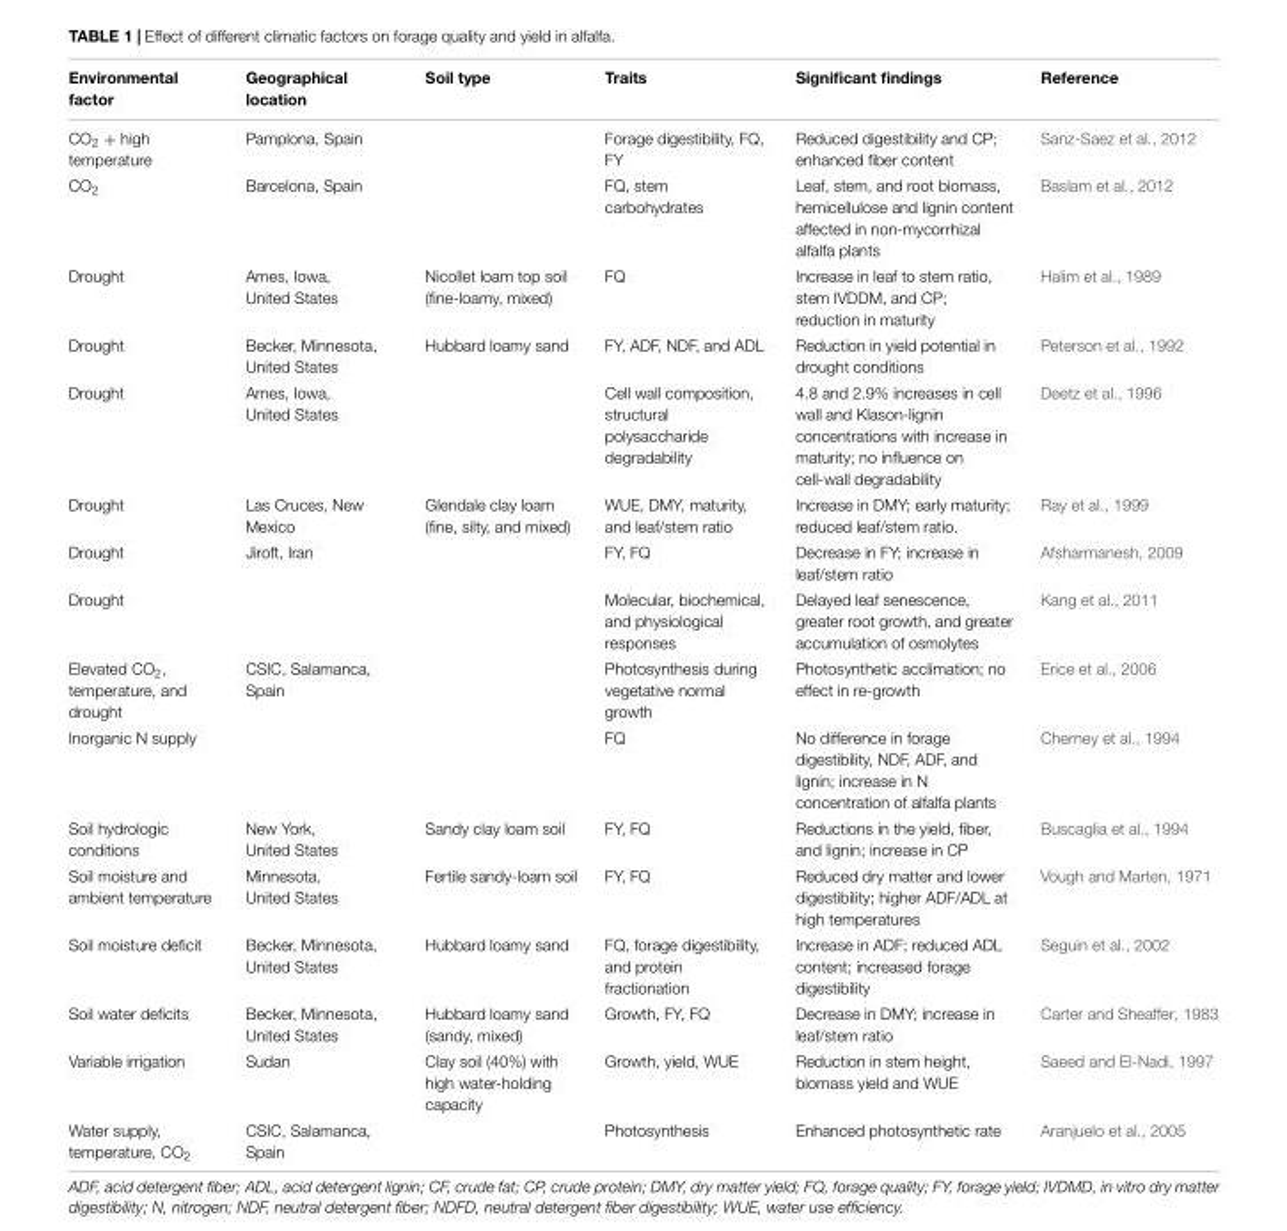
<table><thead><tr><td>Environmental factor</td><td>Geographical location</td><td>Soil type</td><td>Traits</td><td>Significant findings</td><td>Reference</td></tr></thead><tbody><tr><td>CO<sub>2</sub> + high temperature</td><td>Pamplona, Spain</td><td></td><td>Forage digestibility, FQ, FY</td><td>Reduced digestibility and CP; enhanced fiber content</td><td>Sanz-Saez et al., 2012</td></tr><tr><td>CO<sub>2</sub></td><td>Barcelona, Spain</td><td></td><td>FQ, stem carbohydrates</td><td>Leaf, stem, and root biomass, hemicellulose and lignin content affected in non-mycorrhizal alfalfa plants</td><td>Baslam et al., 2012</td></tr><tr><td>Drought</td><td>Ames, Iowa, United States</td><td>Nicollet loam top soil (fine-loamy, mixed)</td><td>FQ</td><td>Increase in leaf to stem ratio, stem IVDDM, and CP; reduction in maturity</td><td>Halim et al., 1989</td></tr><tr><td>Drought</td><td>Becker, Minnesota, United States</td><td>Hubbard loamy sand</td><td>FY, ADF, NDF, and ADL</td><td>Reduction in yield potential in drought conditions</td><td>Peterson et al., 1992</td></tr><tr><td>Drought</td><td>Ames, Iowa, United States</td><td></td><td>Cell wall composition, structural polysaccharide degradability</td><td>4.8 and 2.9% increases in cell wall and Klason-lignin concentrations with increase in maturity; no influence on cell-wall degradability</td><td>Deetz et al., 1996</td></tr><tr><td>Drought</td><td>Las Cruces, New Mexico</td><td>Glendale clay loam (fine, silty, and mixed)</td><td>WUE, DMY, maturity, and leaf/stem ratio</td><td>Increase in DMY; early maturity; reduced leaf/stem ratio.</td><td>Ray et al., 1999</td></tr><tr><td>Drought</td><td>Jiroft, Iran</td><td></td><td>FY, FQ</td><td>Decrease in FY; increase in leaf/stem ratio</td><td>Afsharmanesh, 2009</td></tr><tr><td>Drought</td><td></td><td></td><td>Molecular, biochemical, and physiological responses</td><td>Delayed leaf senescence, greater root growth, and greater accumulation of osmolytes</td><td>Kang et al., 2011</td></tr><tr><td>Elevated CO<sub>2</sub>, temperature, and drought</td><td>CSIC, Salamanca, Spain</td><td></td><td>Photosynthesis during vegetative normal growth</td><td>Photosynthetic acclimation; no effect in re-growth</td><td>Erice et al., 2006</td></tr><tr><td>Inorganic N supply</td><td></td><td></td><td>FQ</td><td>No difference in forage digestibility, NDF, ADF, and lignin; increase in N concentration of alfalfa plants</td><td>Cherney et al., 1994</td></tr><tr><td>Soil hydrologic conditions</td><td>New York, United States</td><td>Sandy clay loam soil</td><td>FY, FQ</td><td>Reductions in the yield, fiber, and lignin; increase in CP</td><td>Buscaglia et al., 1994</td></tr><tr><td>Soil moisture and ambient temperature</td><td>Minnesota, United States</td><td>Fertile sandy-loam soil</td><td>FY, FQ</td><td>Reduced dry matter and lower digestibility; higher ADF/ADL at high temperatures</td><td>Vough and Marten, 1971</td></tr><tr><td>Soil moisture deficit</td><td>Becker, Minnesota, United States</td><td>Hubbard loamy sand</td><td>FQ, forage digestibility, and protein fractionation</td><td>Increase in ADF; reduced ADL content; increased forage digestibility</td><td>Seguin et al., 2002</td></tr><tr><td>Soil water deficits</td><td>Becker, Minnesota, United States</td><td>Hubbard loamy sand (sandy, mixed)</td><td>Growth, FY, FQ</td><td>Decrease in DMY; increase in leaf/stem ratio</td><td>Carter and Sheaffer, 1983</td></tr><tr><td>Variable irrigation</td><td>Sudan</td><td>Clay soil (40%) with high water-holding capacity</td><td>Growth, yield, WUE</td><td>Reduction in stem height, biomass yield and WUE</td><td>Saeed and El-Nadi, 1997</td></tr><tr><td>Water supply, temperature, CO<sub>2</sub></td><td>CSIC, Salamanca, Spain</td><td></td><td>Photosynthesis</td><td>Enhanced photosynthetic rate</td><td>Aranjuelo et al., 2005</td></tr></tbody></table>